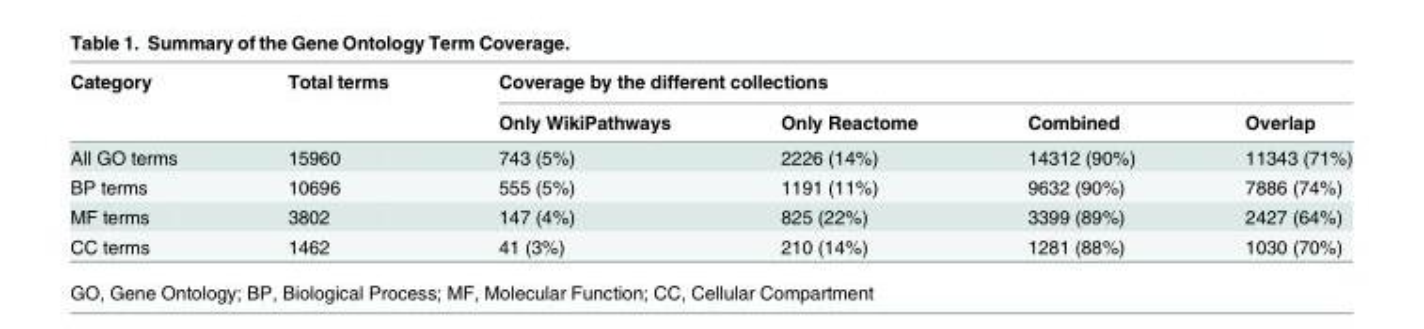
<table><thead><tr><td rowspan="2">Category</td><td rowspan="2">Total terms</td><td colspan="4">Coverage by the different collections</td></tr><tr><td>Only WikiPathways</td><td>Only Reactome</td><td>Combined</td><td>Overlap</td></tr></thead><tbody><tr><td>All GO terms</td><td>15960</td><td>743 (5%)</td><td>2226 (14%)</td><td>14312 (90%)</td><td>11343 (71%)</td></tr><tr><td>BP terms</td><td>10696</td><td>555 (5%)</td><td>1191 (11%)</td><td>9632 (90%)</td><td>7886 (74%)</td></tr><tr><td>MF terms</td><td>3802</td><td>147 (4%)</td><td>825 (22%)</td><td>3399 (89%)</td><td>2427 (64%)</td></tr><tr><td>CC terms</td><td>1462</td><td>41 (3%)</td><td>210 (14%)</td><td>1281 (88%)</td><td>1030 (70%)</td></tr></tbody></table>